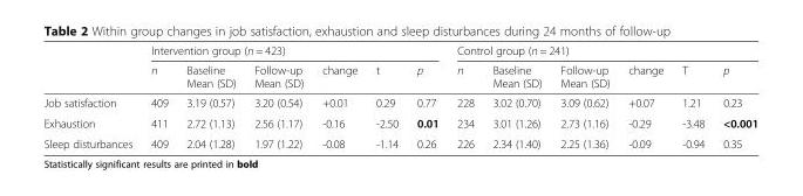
<table><thead><tr><td rowspan="2"></td><td colspan="6">Intervention group (n = 423)</td><td colspan="6">Control group (n = 241)</td></tr><tr><td>n</td><td>Baseline Mean (SD)</td><td>Follow-up Mean (SD)</td><td>change</td><td>t</td><td>p</td><td>n</td><td>Baseline Mean (SD)</td><td>Follow-up Mean (SD)</td><td>change</td><td>T</td><td>p</td></tr></thead><tbody><tr><td>Job satisfaction</td><td>409</td><td>3.19 (0.57)</td><td>3.20 (0.54)</td><td>+0.01</td><td>0.29</td><td>0.77</td><td>228</td><td>3.02 (0.70)</td><td>3.09 (0.62)</td><td>+0.07</td><td>1.21</td><td>0.23</td></tr><tr><td>Exhaustion</td><td>411</td><td>2.72 (1.13)</td><td>2.56 (1.17)</td><td>-0.16</td><td>-2.50</td><td>0.01</td><td>234</td><td>3.01 (1.26)</td><td>2.73 (1.16)</td><td>-0.29</td><td>-3.48</td><td>&lt;0.001</td></tr><tr><td>Sleep disturbances</td><td>409</td><td>2.04 (1.28)</td><td>1.97 (1.22)</td><td>-0.08</td><td>-1.14</td><td>0.26</td><td>226</td><td>2.34 (1.40)</td><td>2.25 (1.36)</td><td>-0.09</td><td>-0.94</td><td>0.35</td></tr></tbody></table>